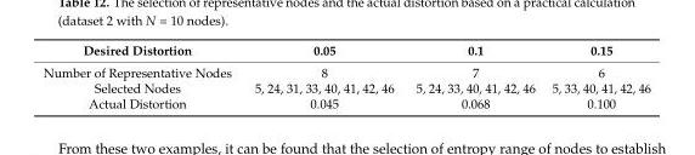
<table><thead><tr><td>Desired Distortion</td><td>0.05</td><td>0.1</td><td>0.15</td></tr></thead><tbody><tr><td>Number of Representative Nodes</td><td>8</td><td>7</td><td>6</td></tr><tr><td>Selected Nodes</td><td>5, 24, 31, 33, 40, 41, 42, 46</td><td>5, 24, 33, 40, 41, 42, 46</td><td>5, 33, 40, 41, 42, 46</td></tr><tr><td>Actual Distortion</td><td>0.045</td><td>0.068</td><td>0.100</td></tr></tbody></table>